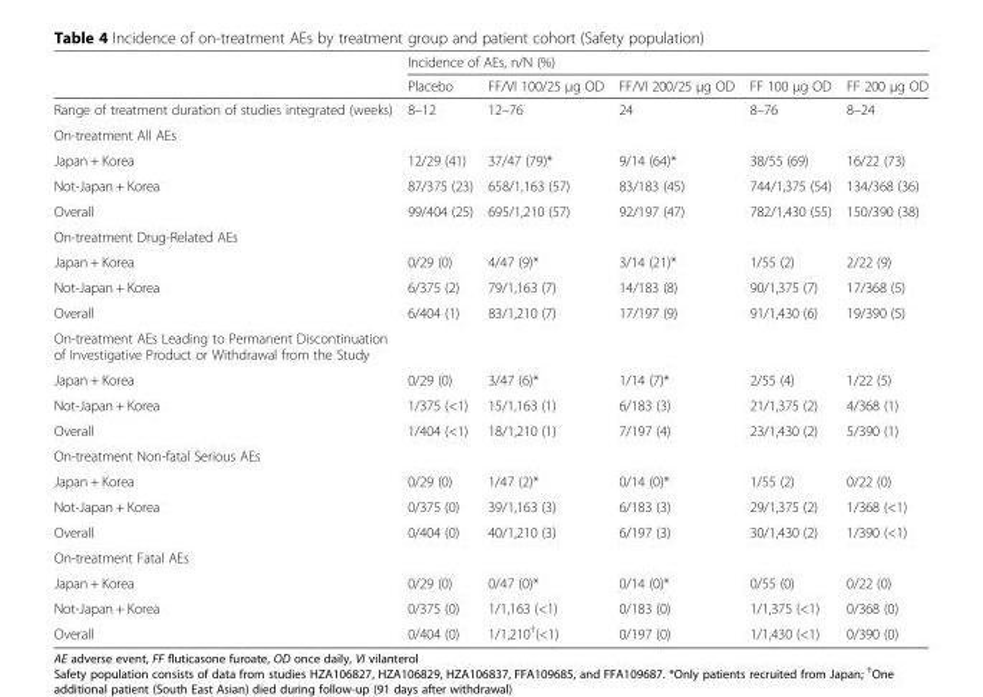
<table><thead><tr><td rowspan="2"></td><td colspan="5">Incidence of AEs, n/N (%)</td></tr><tr><td>Placebo</td><td>FF/VI 100/25 μg OD</td><td>FF/VI 200/25 μg OD</td><td>FF 100 μg OD</td><td>FF 200 μg OD</td></tr></thead><tbody><tr><td>Range of treatment duration of studies integrated (weeks)</td><td>8–12</td><td>12–76</td><td>24</td><td>8–76</td><td>8–24</td></tr><tr><td colspan="6">On-treatment All AEs</td></tr><tr><td>Japan + Korea</td><td>12/29 (41)</td><td>37/47 (79)*</td><td>9/14 (64)*</td><td>38/55 (69)</td><td>16/22 (73)</td></tr><tr><td>Not-Japan + Korea</td><td>87/375 (23)</td><td>658/1,163 (57)</td><td>83/183 (45)</td><td>744/1,375 (54)</td><td>134/368 (36)</td></tr><tr><td>Overall</td><td>99/404 (25)</td><td>695/1,210 (57)</td><td>92/197 (47)</td><td>782/1,430 (55)</td><td>150/390 (38)</td></tr><tr><td colspan="6">On-treatment Drug-Related AEs</td></tr><tr><td>Japan + Korea</td><td>0/29 (0)</td><td>4/47 (9)*</td><td>3/14 (21)*</td><td>1/55 (2)</td><td>2/22 (9)</td></tr><tr><td>Not-Japan + Korea</td><td>6/375 (2)</td><td>79/1,163 (7)</td><td>14/183 (8)</td><td>90/1,375 (7)</td><td>17/368 (5)</td></tr><tr><td>Overall</td><td>6/404 (1)</td><td>83/1,210 (7)</td><td>17/197 (9)</td><td>91/1,430 (6)</td><td>19/390 (5)</td></tr><tr><td colspan="6">On-treatment AEs Leading to Permanent Discontinuation of Investigative Product or Withdrawal from the Study</td></tr><tr><td>Japan + Korea</td><td>0/29 (0)</td><td>3/47 (6)*</td><td>1/14 (7)*</td><td>2/55 (4)</td><td>1/22 (5)</td></tr><tr><td>Not-Japan + Korea</td><td>1/375 (&lt;1)</td><td>15/1,163 (1)</td><td>6/183 (3)</td><td>21/1,375 (2)</td><td>4/368 (1)</td></tr><tr><td>Overall</td><td>1/404 (&lt;1)</td><td>18/1,210 (1)</td><td>7/197 (4)</td><td>23/1,430 (2)</td><td>5/390 (1)</td></tr><tr><td colspan="6">On-treatment Non-fatal Serious AEs</td></tr><tr><td>Japan + Korea</td><td>0/29 (0)</td><td>1/47 (2)*</td><td>0/14 (0)*</td><td>1/55 (2)</td><td>0/22 (0)</td></tr><tr><td>Not-Japan + Korea</td><td>0/375 (0)</td><td>39/1,163 (3)</td><td>6/183 (3)</td><td>29/1,375 (2)</td><td>1/368 (&lt;1)</td></tr><tr><td>Overall</td><td>0/404 (0)</td><td>40/1,210 (3)</td><td>6/197 (3)</td><td>30/1,430 (2)</td><td>1/390 (&lt;1)</td></tr><tr><td colspan="6">On-treatment Fatal AEs</td></tr><tr><td>Japan + Korea</td><td>0/29 (0)</td><td>0/47 (0)*</td><td>0/14 (0)*</td><td>0/55 (0)</td><td>0/22 (0)</td></tr><tr><td>Not-Japan + Korea</td><td>0/375 (0)</td><td>1/1,163 (&lt;1)</td><td>0/183 (0)</td><td>1/1,375 (&lt;1)</td><td>0/368 (0)</td></tr><tr><td>Overall</td><td>0/404 (0)</td><td>1/1,210<sup>†</sup>(&lt;1)</td><td>0/197 (0)</td><td>1/1,430 (&lt;1)</td><td>0/390 (0)</td></tr></tbody></table>